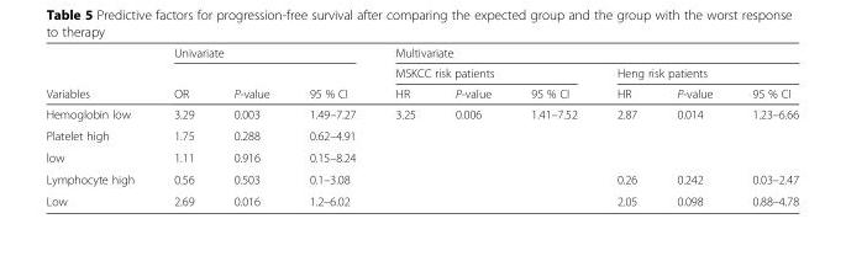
<table><thead><tr><td rowspan="3">Variables</td><td colspan="3">Univariate</td><td colspan="6">Multivariate</td></tr><tr><td rowspan="2">OR</td><td rowspan="2">P-value</td><td rowspan="2">95 % CI</td><td colspan="3">MSKCC risk patients</td><td colspan="3">Heng risk patients</td></tr><tr><td>HR</td><td>P-value</td><td>95 % CI</td><td>HR</td><td>P-value</td><td>95 % CI</td></tr></thead><tbody><tr><td>Hemoglobin low</td><td>3.29</td><td>0.003</td><td>1.49–7.27</td><td>3.25</td><td>0.006</td><td>1.41–7.52</td><td>2.87</td><td>0.014</td><td>1.23–6.66</td></tr><tr><td>Platelet high</td><td>1.75</td><td>0.288</td><td>0.62–4.91</td><td></td><td></td><td></td><td></td><td></td><td></td></tr><tr><td>low</td><td>1.11</td><td>0.916</td><td>0.15–8.24</td><td></td><td></td><td></td><td></td><td></td><td></td></tr><tr><td>Lymphocyte high</td><td>0.56</td><td>0.503</td><td>0.1–3.08</td><td></td><td></td><td></td><td>0.26</td><td>0.242</td><td>0.03–2.47</td></tr><tr><td>Low</td><td>2.69</td><td>0.016</td><td>1.2–6.02</td><td></td><td></td><td></td><td>2.05</td><td>0.098</td><td>0.88–4.78</td></tr></tbody></table>